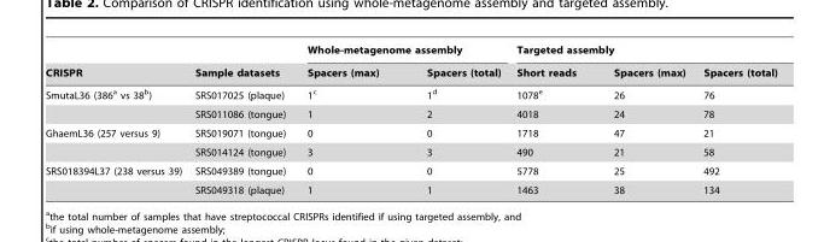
<table><thead><tr><td rowspan="2">CRISPR</td><td rowspan="2">Sample datasets</td><td colspan="2">Whole-metagenome assembly</td><td colspan="3">Targeted assembly</td></tr><tr><td>Spacers (max)</td><td>Spacers (total)</td><td>Short reads</td><td>Spacers (max)</td><td>Spacers (total)</td></tr></thead><tbody><tr><td rowspan="2">SmutaL36 (386<sup>a</sup> vs 38<sup>b</sup>)</td><td>SRS017025 (plaque)</td><td>1<sup>c</sup></td><td>1<sup>d</sup></td><td>1078<sup>e</sup></td><td>26</td><td>76</td></tr><tr><td>SRS011086 (tongue)</td><td>1</td><td>2</td><td>4018</td><td>24</td><td>78</td></tr><tr><td rowspan="2">GhaemL36 (257 versus 9)</td><td>SRS019071 (tongue)</td><td>0</td><td>0</td><td>1718</td><td>47</td><td>21</td></tr><tr><td>SRS014124 (tongue)</td><td>3</td><td>3</td><td>490</td><td>21</td><td>58</td></tr><tr><td rowspan="2">SRS018394L37 (238 versus 39)</td><td>SRS049389 (tongue)</td><td>0</td><td>0</td><td>5778</td><td>25</td><td>492</td></tr><tr><td>SRS049318 (plaque)</td><td>1</td><td>1</td><td>1463</td><td>38</td><td>134</td></tr></tbody></table>